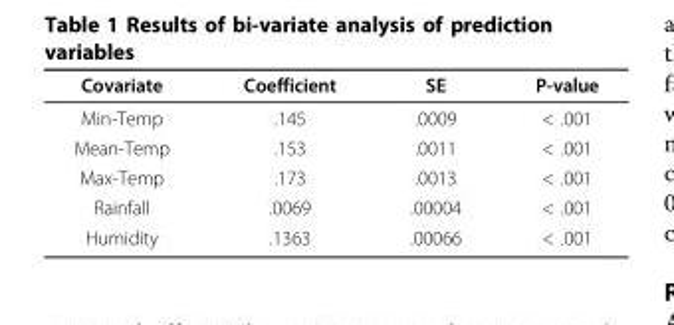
<table><thead><tr><td>Covariate</td><td>Coefficient</td><td>SE</td><td>P-value</td></tr></thead><tbody><tr><td>Min-Temp</td><td>.145</td><td>.0009</td><td>&lt; .001</td></tr><tr><td>Mean-Temp</td><td>.153</td><td>.0011</td><td>&lt; .001</td></tr><tr><td>Max-Temp</td><td>.173</td><td>.0013</td><td>&lt; .001</td></tr><tr><td>Rainfall</td><td>.0069</td><td>.00004</td><td>&lt; .001</td></tr><tr><td>Humidity</td><td>.1363</td><td>.00066</td><td>&lt; .001</td></tr></tbody></table>